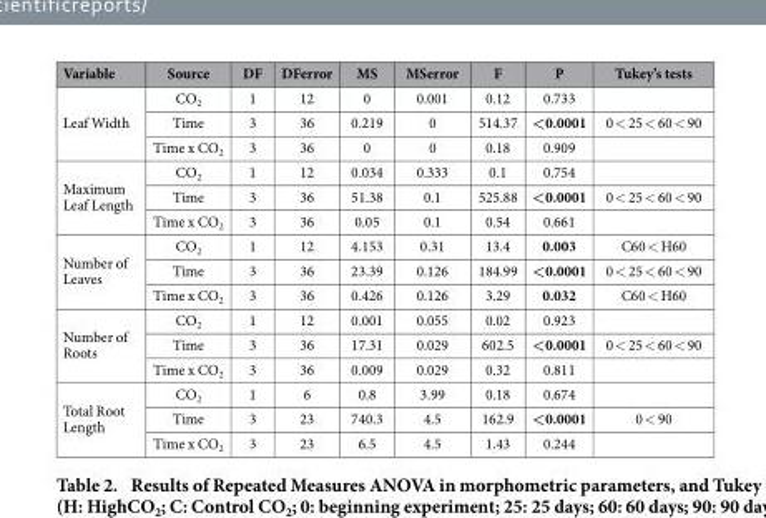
<table><thead><tr><td>Variable</td><td>Source</td><td>DF</td><td>DFerror</td><td>MS</td><td>MSerror</td><td>F</td><td>P</td><td>Tukey’s tests</td></tr></thead><tbody><tr><td rowspan="3">Leaf Width</td><td>CO<sub>2</sub></td><td>1</td><td>12</td><td>0</td><td>0.001</td><td>0.12</td><td>0.733</td><td></td></tr><tr><td>Time</td><td>3</td><td>36</td><td>0.219</td><td>0</td><td>514.37</td><td>&lt; 0.0001</td><td>0 &lt; 25 &lt; 60 &lt; 90</td></tr><tr><td>Time x CO<sub>2</sub></td><td>3</td><td>36</td><td>0</td><td>0</td><td>0.18</td><td>0.909</td><td></td></tr><tr><td rowspan="3">Maximum Leaf Length</td><td>CO<sub>2</sub></td><td>1</td><td>12</td><td>0.034</td><td>0.333</td><td>0.1</td><td>0.754</td><td></td></tr><tr><td>Time</td><td>3</td><td>36</td><td>51.38</td><td>0.1</td><td>525.88</td><td>&lt; 0.0001</td><td>0 &lt; 25 &lt; 60 &lt; 90</td></tr><tr><td>Time x CO<sub>2</sub></td><td>3</td><td>36</td><td>0.05</td><td>0.1</td><td>0.54</td><td>0.661</td><td></td></tr><tr><td rowspan="3">Number of Leaves</td><td>CO<sub>2</sub></td><td>1</td><td>12</td><td>4.153</td><td>0.31</td><td>13.4</td><td>0.003</td><td>C60 &lt; H60</td></tr><tr><td>Time</td><td>3</td><td>36</td><td>23.39</td><td>0.126</td><td>184.99</td><td>&lt; 0.0001</td><td>0 &lt; 25 &lt; 60 &lt; 90</td></tr><tr><td>Time x CO<sub>2</sub></td><td>3</td><td>36</td><td>0.426</td><td>0.126</td><td>3.29</td><td>0.032</td><td>C60 &lt; H60</td></tr><tr><td rowspan="3">Number of Roots</td><td>CO<sub>2</sub></td><td>1</td><td>12</td><td>0.001</td><td>0.055</td><td>0.02</td><td>0.923</td><td></td></tr><tr><td>Time</td><td>3</td><td>36</td><td>17.31</td><td>0.029</td><td>602.5</td><td>&lt; 0.0001</td><td>0 &lt; 25 &lt; 60 &lt; 90</td></tr><tr><td>Time x CO<sub>2</sub></td><td>3</td><td>36</td><td>0.009</td><td>0.029</td><td>0.32</td><td>0.811</td><td></td></tr><tr><td rowspan="3">Total Root Length</td><td>CO<sub>2</sub></td><td>1</td><td>6</td><td>0.8</td><td>3.99</td><td>0.18</td><td>0.674</td><td></td></tr><tr><td>Time</td><td>3</td><td>23</td><td>740.3</td><td>4.5</td><td>162.9</td><td>&lt; 0.0001</td><td>0 &lt; 90</td></tr><tr><td>Time x CO<sub>2</sub></td><td>3</td><td>23</td><td>6.5</td><td>4.5</td><td>1.43</td><td>0.244</td><td></td></tr></tbody></table>